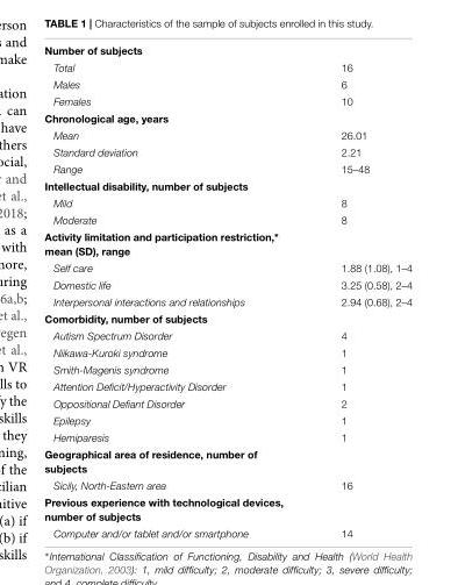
<table><tbody><tr><td colspan="2">Number of subjects</td></tr><tr><td>Total</td><td>16</td></tr><tr><td>Males</td><td>6</td></tr><tr><td>Females</td><td>10</td></tr><tr><td colspan="2">Chronological age, years</td></tr><tr><td>Mean</td><td>26.01</td></tr><tr><td>Standard deviation</td><td>2.21</td></tr><tr><td>Range</td><td>15–48</td></tr><tr><td colspan="2">Intellectual disability, number of subjects</td></tr><tr><td>Mild</td><td>8</td></tr><tr><td>Moderate</td><td>8</td></tr><tr><td colspan="2">Activity limitation and participation restriction,∗ mean (SD), range</td></tr><tr><td>Self care</td><td>1.88 (1.08), 1–4</td></tr><tr><td>Domestic life</td><td>3.25 (0.58), 2–4</td></tr><tr><td>Interpersonal interactions and relationships</td><td>2.94 (0.68), 2–4</td></tr><tr><td colspan="2">Comorbidity, number of subjects</td></tr><tr><td>Autism Spectrum Disorder</td><td>4</td></tr><tr><td>Niikawa-Kuroki syndrome</td><td>1</td></tr><tr><td>Smith-Magenis syndrome</td><td>1</td></tr><tr><td>Attention Deficit/Hyperactivity Disorder</td><td>1</td></tr><tr><td>Oppositional Defiant Disorder</td><td>2</td></tr><tr><td>Epilepsy</td><td>1</td></tr><tr><td>Hemiparesis</td><td>1</td></tr><tr><td colspan="2">Geographical area of residence, number of subjects</td></tr><tr><td>Sicily, North-Eastern area</td><td>16</td></tr><tr><td colspan="2">Previous experience with technological devices, number of subjects</td></tr><tr><td>Computer and/or tablet and/or smartphone</td><td>14</td></tr></tbody></table>